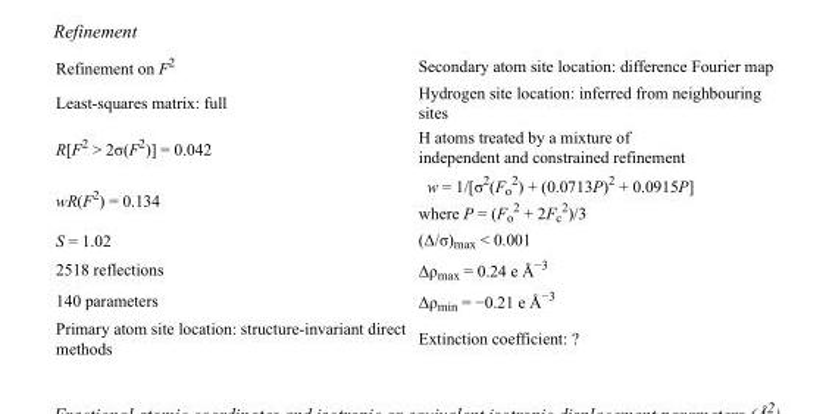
<table><tbody><tr><td>Refinement on F<sup>2</sup></td><td>Secondary atom site location: difference Fourier map</td></tr><tr><td>Least-squares matrix: full</td><td>Hydrogen site location: inferred from neighbouring sites</td></tr><tr><td>R[F<sup>2</sup> &gt; 2σ(F<sup>2</sup>)] = 0.042</td><td>H atoms treated by a mixture of independent and constrained refinement</td></tr><tr><td>wR(F<sup>2</sup>) = 0.134</td><td>w = 1/[σ<sup>2</sup>(F<sub>o</sub> <sup>2</sup>) + (0.0713P)<sup>2</sup> + 0.0915P] where P = (F<sub>o</sub> <sup>2</sup> + 2F<sub>c</sub> <sup>2</sup>)/3</td></tr><tr><td>S = 1.02</td><td>(Δ/σ)<sub>max</sub> &lt; 0.001</td></tr><tr><td>2518 reflections</td><td>Δρ<sub>max</sub> = 0.24 e Å<sup>−3</sup></td></tr><tr><td>140 parameters</td><td>Δρ<sub>min</sub> = −0.21 e Å<sup>−3</sup></td></tr><tr><td>Primary atom site location: structure-invariant direct methods</td><td>Extinction coefficient: ?</td></tr></tbody></table>